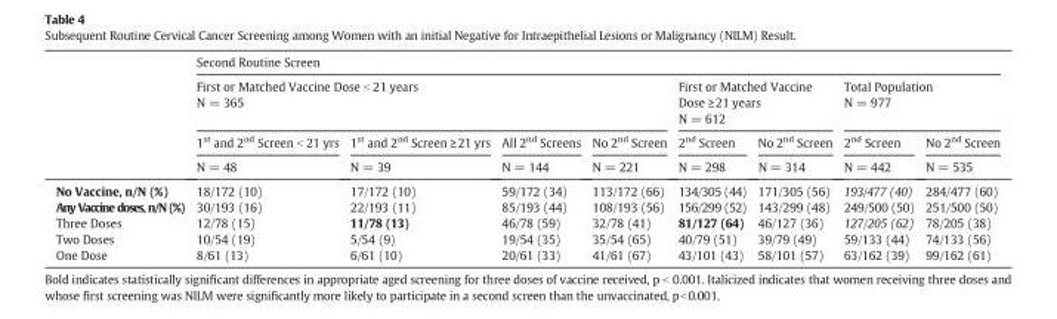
<table><thead><tr><td rowspan="4"></td><td colspan="8">Second Routine Screen</td></tr><tr><td colspan="4">First or Matched Vaccine Dose &lt; 21 years N = 365</td><td colspan="2">First or Matched Vaccine Dose ≥21 years N = 612</td><td colspan="2">Total Population N = 977</td></tr><tr><td rowspan="2">1<sup>st</sup> and 2<sup>nd</sup> Screen &lt; 21 yrs N = 48</td><td rowspan="2">1<sup>st</sup> and 2<sup>nd</sup> Screen ≥21 yrs N = 39</td><td rowspan="2">All 2<sup>nd</sup> Screens N = 144</td><td rowspan="2">No 2<sup>nd</sup> Screen N = 221</td><td rowspan="2">2<sup>nd</sup> Screen N = 298</td><td rowspan="2">No 2<sup>nd</sup> Screen N = 314</td><td rowspan="2">2<sup>nd</sup> Screen N = 442</td><td rowspan="2">No 2<sup>nd</sup> Screen N = 535</td></tr><tr></tr></thead><tbody><tr><td>No Vaccine, n/N (%)</td><td>18/172 (10)</td><td>17/172 (10)</td><td>59/172 (34)</td><td>113/172 (66)</td><td>134/305 (44)</td><td>171/305 (56)</td><td>193/477 (40)</td><td>284/477 (60)</td></tr><tr><td>Any Vaccine doses, n/N (%)</td><td>30/193 (16)</td><td>22/193 (11)</td><td>85/193 (44)</td><td>108/193 (56)</td><td>156/299 (52)</td><td>143/299 (48)</td><td>249/500 (50)</td><td>251/500 (50)</td></tr><tr><td>Three Doses</td><td>12/78 (15)</td><td>11/78 (13)</td><td>46/78 (59)</td><td>32/78 (41)</td><td>81/127 (64)</td><td>46/127 (36)</td><td>127/205 (62)</td><td>78/205 (38)</td></tr><tr><td>Two Doses</td><td>10/54 (19)</td><td>5/54 (9)</td><td>19/54 (35)</td><td>35/54 (65)</td><td>40/79 (51)</td><td>39/79 (49)</td><td>59/133 (44)</td><td>74/133 (56)</td></tr><tr><td>One Dose</td><td>8/61 (13)</td><td>6/61 (10)</td><td>20/61 (33)</td><td>41/61 (67)</td><td>43/101 (43)</td><td>58/101 (57)</td><td>63/162 (39)</td><td>99/162 (61)</td></tr></tbody></table>